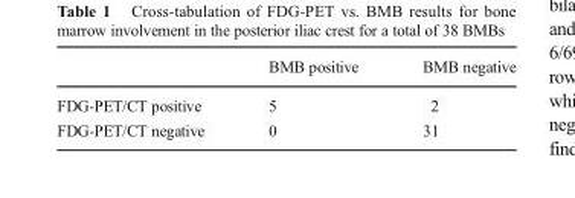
<table><thead><tr><td></td><td>BMB positive</td><td>BMB negative</td></tr></thead><tbody><tr><td>FDG-PET/CT positive</td><td>5</td><td>2</td></tr><tr><td>FDG-PET/CT negative</td><td>0</td><td>31</td></tr></tbody></table>